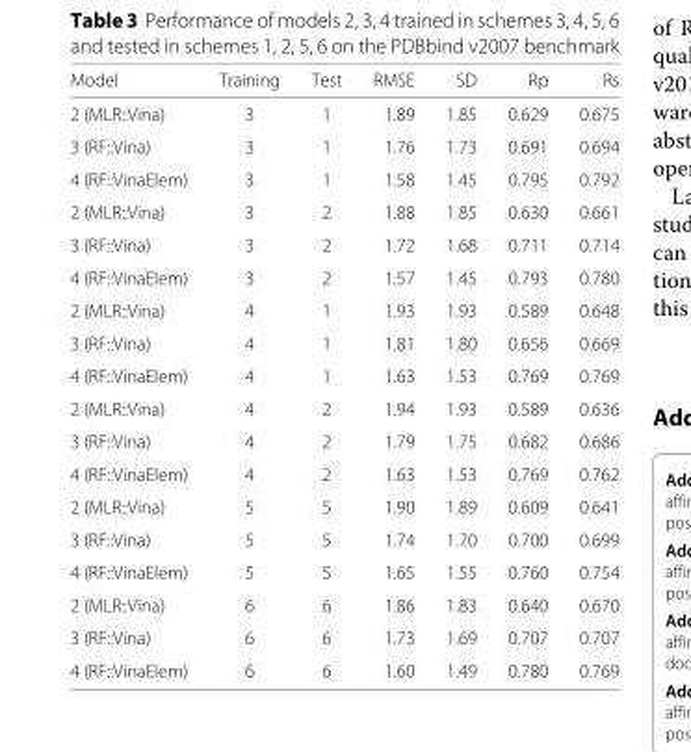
<table><thead><tr><td>Model</td><td>Training</td><td>Test</td><td>RMSE</td><td>SD</td><td>Rp</td><td>Rs</td></tr></thead><tbody><tr><td>2 (MLR::Vina)</td><td>3</td><td>1</td><td>1.89</td><td>1.85</td><td>0.629</td><td>0.675</td></tr><tr><td>3 (RF::Vina)</td><td>3</td><td>1</td><td>1.76</td><td>1.73</td><td>0.691</td><td>0.694</td></tr><tr><td>4 (RF::VinaElem)</td><td>3</td><td>1</td><td>1.58</td><td>1.45</td><td>0.795</td><td>0.792</td></tr><tr><td>2 (MLR::Vina)</td><td>3</td><td>2</td><td>1.88</td><td>1.85</td><td>0.630</td><td>0.661</td></tr><tr><td>3 (RF::Vina)</td><td>3</td><td>2</td><td>1.72</td><td>1.68</td><td>0.711</td><td>0.714</td></tr><tr><td>4 (RF::VinaElem)</td><td>3</td><td>2</td><td>1.57</td><td>1.45</td><td>0.793</td><td>0.780</td></tr><tr><td>2 (MLR::Vina)</td><td>4</td><td>1</td><td>1.93</td><td>1.93</td><td>0.589</td><td>0.648</td></tr><tr><td>3 (RF::Vina)</td><td>4</td><td>1</td><td>1.81</td><td>1.80</td><td>0.656</td><td>0.669</td></tr><tr><td>4 (RF::VinaElem)</td><td>4</td><td>1</td><td>1.63</td><td>1.53</td><td>0.769</td><td>0.769</td></tr><tr><td>2 (MLR::Vina)</td><td>4</td><td>2</td><td>1.94</td><td>1.93</td><td>0.589</td><td>0.636</td></tr><tr><td>3 (RF::Vina)</td><td>4</td><td>2</td><td>1.79</td><td>1.75</td><td>0.682</td><td>0.686</td></tr><tr><td>4 (RF::VinaElem)</td><td>4</td><td>2</td><td>1.63</td><td>1.53</td><td>0.769</td><td>0.762</td></tr><tr><td>2 (MLR::Vina)</td><td>5</td><td>5</td><td>1.90</td><td>1.89</td><td>0.609</td><td>0.641</td></tr><tr><td>3 (RF::Vina)</td><td>5</td><td>5</td><td>1.74</td><td>1.70</td><td>0.700</td><td>0.699</td></tr><tr><td>4 (RF::VinaElem)</td><td>5</td><td>5</td><td>1.65</td><td>1.55</td><td>0.760</td><td>0.754</td></tr><tr><td>2 (MLR::Vina)</td><td>6</td><td>6</td><td>1.86</td><td>1.83</td><td>0.640</td><td>0.670</td></tr><tr><td>3 (RF::Vina)</td><td>6</td><td>6</td><td>1.73</td><td>1.69</td><td>0.707</td><td>0.707</td></tr><tr><td>4 (RF::VinaElem)</td><td>6</td><td>6</td><td>1.60</td><td>1.49</td><td>0.780</td><td>0.769</td></tr></tbody></table>